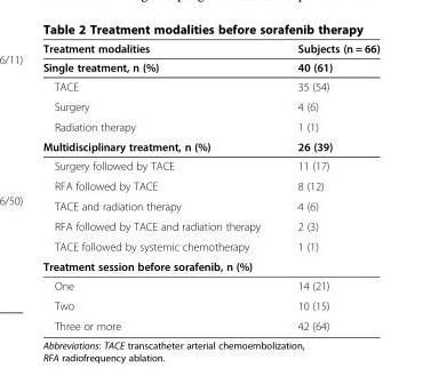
<table><thead><tr><td>Treatment modalities</td><td>Subjects (n = 66)</td></tr></thead><tbody><tr><td>Single treatment, n (%)</td><td>40 (61)</td></tr><tr><td>TACE</td><td>35 (54)</td></tr><tr><td>Surgery</td><td>4 (6)</td></tr><tr><td>Radiation therapy</td><td>1 (1)</td></tr><tr><td>Multidisciplinary treatment, n (%)</td><td>26 (39)</td></tr><tr><td>Surgery followed by TACE</td><td>11 (17)</td></tr><tr><td>RFA followed by TACE</td><td>8 (12)</td></tr><tr><td>TACE and radiation therapy</td><td>4 (6)</td></tr><tr><td>RFA followed by TACE and radiation therapy</td><td>2 (3)</td></tr><tr><td>TACE followed by systemic chemotherapy</td><td>1 (1)</td></tr><tr><td colspan="2">Treatment session before sorafenib, n (%)</td></tr><tr><td>One</td><td>14 (21)</td></tr><tr><td>Two</td><td>10 (15)</td></tr><tr><td>Three or more</td><td>42 (64)</td></tr></tbody></table>